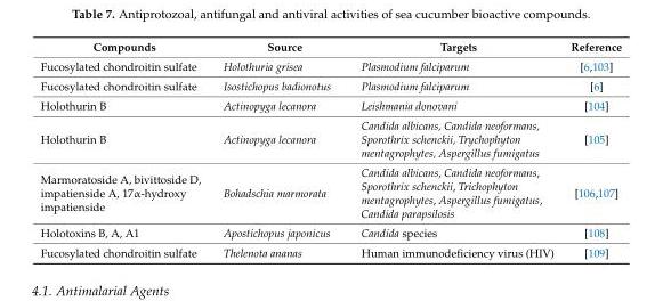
<table><thead><tr><td>Compounds</td><td>Source</td><td>Targets</td><td>Reference</td></tr></thead><tbody><tr><td>Fucosylated chondroitin sulfate</td><td>Holothuria grisea</td><td>Plasmodium falciparum</td><td>[6,103]</td></tr><tr><td>Fucosylated chondroitin sulfate</td><td>Isostichopus badionotus</td><td>Plasmodium falciparum</td><td>[6]</td></tr><tr><td>Holothurin B</td><td>Actinopyga lecanora</td><td>Leishmania donovani</td><td>[104]</td></tr><tr><td>Holothurin B</td><td>Actinopyga lecanora</td><td>Candida albicans, Candida neoformans, Sporothrix schenckii, Trychophyton mentagrophytes, Aspergillus fumigatus</td><td>[105]</td></tr><tr><td>Marmoratoside A, bivittoside D, impatienside A, 17α-hydroxy impatienside</td><td>Bohadschia marmorata</td><td>Candida albicans, Candida neoformans, Sporothrix schenckii, Trichophyton mentagrophytes, Aspergillus fumigatus, Candida parapsilosis</td><td>[106,107]</td></tr><tr><td>Holotoxins B, A, A1</td><td>Apostichopus japonicus</td><td>Candida species</td><td>[108]</td></tr><tr><td>Fucosylated chondroitin sulfate</td><td>Thelenota ananas</td><td>Human immunodeficiency virus (HIV)</td><td>[109]</td></tr></tbody></table>